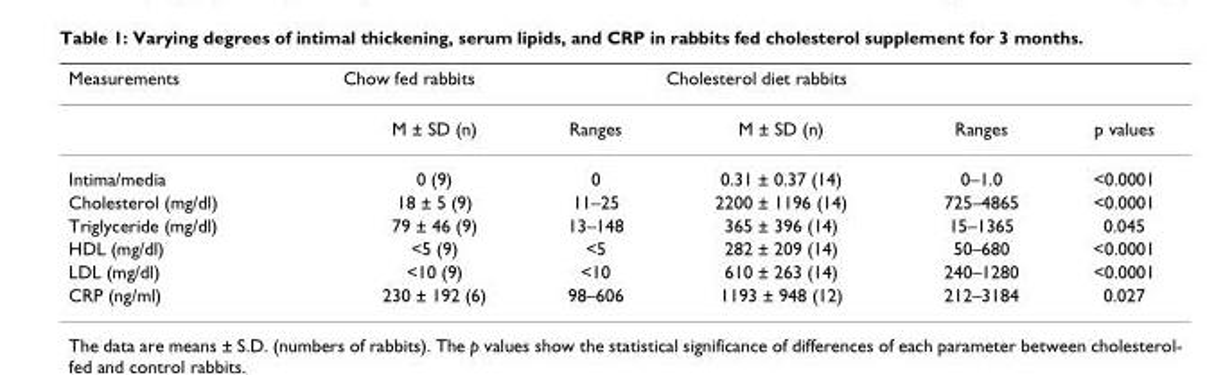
<table><thead><tr><td rowspan="2">Measurements</td><td colspan="2">Chow fed rabbits</td><td colspan="2">Cholesterol diet rabbits</td><td rowspan="2">p values</td></tr><tr><td>M ± SD (n)</td><td>Ranges</td><td>M ± SD (n)</td><td>Ranges</td></tr></thead><tbody><tr><td>Intima/media</td><td>0 (9)</td><td>0</td><td>0.31 ± 0.37 (14)</td><td>0–1.0</td><td>&lt;0.0001</td></tr><tr><td>Cholesterol (mg/dl)</td><td>18 ± 5 (9)</td><td>11–25</td><td>2200 ± 1196 (14)</td><td>725–4865</td><td>&lt;0.0001</td></tr><tr><td>Triglyceride (mg/dl)</td><td>79 ± 46 (9)</td><td>13–148</td><td>365 ± 396 (14)</td><td>15–1365</td><td>0.045</td></tr><tr><td>HDL (mg/dl)</td><td>&lt;5 (9)</td><td>&lt;5</td><td>282 ± 209 (14)</td><td>50–680</td><td>&lt;0.0001</td></tr><tr><td>LDL (mg/dl)</td><td>&lt;10 (9)</td><td>&lt;10</td><td>610 ± 263 (14)</td><td>240–1280</td><td>&lt;0.0001</td></tr><tr><td>CRP (ng/ml)</td><td>230 ± 192 (6)</td><td>98–606</td><td>1193 ± 948 (12)</td><td>212–3184</td><td>0.027</td></tr></tbody></table>